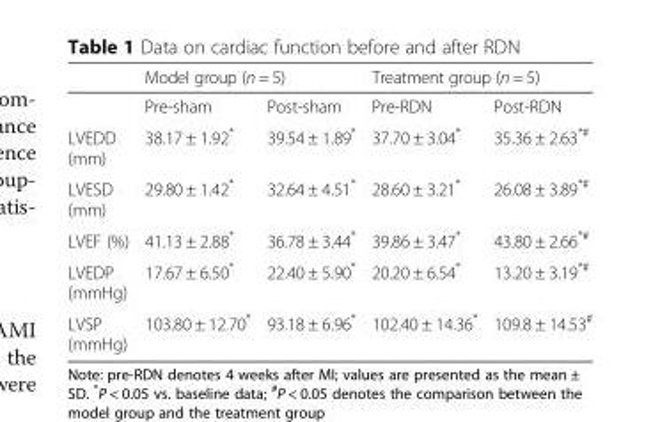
<table><thead><tr><td rowspan="2"></td><td colspan="2">Model group (n = 5)</td><td colspan="2">Treatment group (n = 5)</td></tr><tr><td>Pre-sham</td><td>Post-sham</td><td>Pre-RDN</td><td>Post-RDN</td></tr></thead><tbody><tr><td>LVEDD (mm)</td><td>38.17 ± 1.92*</td><td>39.54 ± 1.89*</td><td>37.70 ± 3.04*</td><td>35.36 ± 2.63<sup>*#</sup></td></tr><tr><td>LVESD (mm)</td><td>29.80 ± 1.42*</td><td>32.64 ± 4.51*</td><td>28.60 ± 3.21*</td><td>26.08 ± 3.89<sup>*#</sup></td></tr><tr><td>LVEF (%)</td><td>41.13 ± 2.88*</td><td>36.78 ± 3.44*</td><td>39.86 ± 3.47*</td><td>43.80 ± 2.66<sup>*#</sup></td></tr><tr><td>LVEDP (mmHg)</td><td>17.67 ± 6.50*</td><td>22.40 ± 5.90*</td><td>20.20 ± 6.54*</td><td>13.20 ± 3.19<sup>*#</sup></td></tr><tr><td>LVSP (mmHg)</td><td>103.80 ± 12.70*</td><td>93.18 ± 6.96*</td><td>102.40 ± 14.36*</td><td>109.8 ± 14.53<sup>#</sup></td></tr></tbody></table>